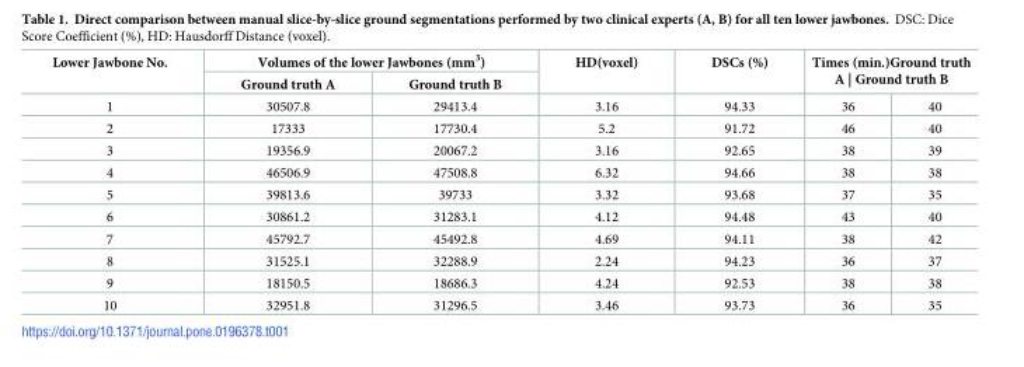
<table><thead><tr><td rowspan="3">Lower Jawbone No. 1</td><td colspan="2">Volumes of the lower Jawbones (mm<sup>3</sup>)</td><td rowspan="3">HD(voxel) 3.16</td><td rowspan="3">DSCs (%) 94.33</td><td rowspan="2" colspan="2">Times (min.)Ground truth A | Ground truth B</td></tr><tr><td rowspan="2">Ground truth A 30507.8</td><td rowspan="2">Ground truth B 29413.4</td></tr><tr><td>36</td><td>40</td></tr></thead><tbody><tr><td>2</td><td>17333</td><td>17730.4</td><td>5.2</td><td>91.72</td><td>46</td><td>40</td></tr><tr><td>3</td><td>19356.9</td><td>20067.2</td><td>3.16</td><td>92.65</td><td>38</td><td>39</td></tr><tr><td>4</td><td>46506.9</td><td>47508.8</td><td>6.32</td><td>94.66</td><td>38</td><td>38</td></tr><tr><td>5</td><td>39813.6</td><td>39733</td><td>3.32</td><td>93.68</td><td>37</td><td>35</td></tr><tr><td>6</td><td>30861.2</td><td>31283.1</td><td>4.12</td><td>94.48</td><td>43</td><td>40</td></tr><tr><td>7</td><td>45792.7</td><td>45492.8</td><td>4.69</td><td>94.11</td><td>38</td><td>42</td></tr><tr><td>8</td><td>31525.1</td><td>32288.9</td><td>2.24</td><td>94.23</td><td>36</td><td>37</td></tr><tr><td>9</td><td>18150.5</td><td>18686.3</td><td>4.24</td><td>92.53</td><td>38</td><td>38</td></tr><tr><td>10</td><td>32951.8</td><td>31296.5</td><td>3.46</td><td>93.73</td><td>36</td><td>35</td></tr></tbody></table>